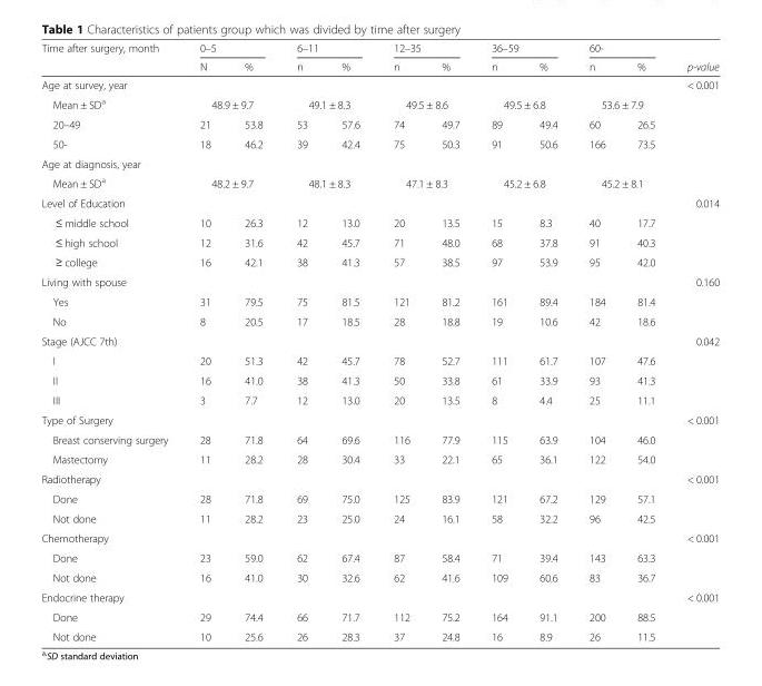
<table><thead><tr><td rowspan="2">Time after surgery, month</td><td colspan="2">0–5</td><td colspan="2">6–11</td><td colspan="2">12–35</td><td colspan="2">36–59</td><td colspan="2">60-</td><td rowspan="2">p-value</td></tr><tr><td>N</td><td>%</td><td>n</td><td>%</td><td>n</td><td>%</td><td>n</td><td>%</td><td>n</td><td>%</td></tr></thead><tbody><tr><td>Age at survey, year</td><td></td><td></td><td></td><td></td><td></td><td></td><td></td><td></td><td></td><td></td><td>&lt; 0.001</td></tr><tr><td>Mean ± SD<sup>a</sup></td><td colspan="2">48.9 ± 9.7</td><td colspan="2">49.1 ± 8.3</td><td colspan="2">49.5 ± 8.6</td><td colspan="2">49.5 ± 6.8</td><td colspan="2">53.6 ± 7.9</td><td></td></tr><tr><td>20–49</td><td>21</td><td>53.8</td><td>53</td><td>57.6</td><td>74</td><td>49.7</td><td>89</td><td>49.4</td><td>60</td><td>26.5</td><td></td></tr><tr><td>50-</td><td>18</td><td>46.2</td><td>39</td><td>42.4</td><td>75</td><td>50.3</td><td>91</td><td>50.6</td><td>166</td><td>73.5</td><td></td></tr><tr><td colspan="12">Age at diagnosis, year</td></tr><tr><td>Mean ± SD<sup>a</sup></td><td colspan="2">48.2 ± 9.7</td><td colspan="2">48.1 ± 8.3</td><td colspan="2">47.1 ± 8.3</td><td colspan="2">45.2 ± 6.8</td><td colspan="2">45.2 ± 8.1</td><td></td></tr><tr><td>Level of Education</td><td></td><td></td><td></td><td></td><td></td><td></td><td></td><td></td><td></td><td></td><td>0.014</td></tr><tr><td>≤ middle school</td><td>10</td><td>26.3</td><td>12</td><td>13.0</td><td>20</td><td>13.5</td><td>15</td><td>8.3</td><td>40</td><td>17.7</td><td></td></tr><tr><td>≤ high school</td><td>12</td><td>31.6</td><td>42</td><td>45.7</td><td>71</td><td>48.0</td><td>68</td><td>37.8</td><td>91</td><td>40.3</td><td></td></tr><tr><td>≥ college</td><td>16</td><td>42.1</td><td>38</td><td>41.3</td><td>57</td><td>38.5</td><td>97</td><td>53.9</td><td>95</td><td>42.0</td><td></td></tr><tr><td>Living with spouse</td><td></td><td></td><td></td><td></td><td></td><td></td><td></td><td></td><td></td><td></td><td>0.160</td></tr><tr><td>Yes</td><td>31</td><td>79.5</td><td>75</td><td>81.5</td><td>121</td><td>81.2</td><td>161</td><td>89.4</td><td>184</td><td>81.4</td><td></td></tr><tr><td>No</td><td>8</td><td>20.5</td><td>17</td><td>18.5</td><td>28</td><td>18.8</td><td>19</td><td>10.6</td><td>42</td><td>18.6</td><td></td></tr><tr><td>Stage (AJCC 7th)</td><td></td><td></td><td></td><td></td><td></td><td></td><td></td><td></td><td></td><td></td><td>0.042</td></tr><tr><td>I</td><td>20</td><td>51.3</td><td>42</td><td>45.7</td><td>78</td><td>52.7</td><td>111</td><td>61.7</td><td>107</td><td>47.6</td><td></td></tr><tr><td>II</td><td>16</td><td>41.0</td><td>38</td><td>41.3</td><td>50</td><td>33.8</td><td>61</td><td>33.9</td><td>93</td><td>41.3</td><td></td></tr><tr><td>III</td><td>3</td><td>7.7</td><td>12</td><td>13.0</td><td>20</td><td>13.5</td><td>8</td><td>4.4</td><td>25</td><td>11.1</td><td></td></tr><tr><td>Type of Surgery</td><td></td><td></td><td></td><td></td><td></td><td></td><td></td><td></td><td></td><td></td><td>&lt; 0.001</td></tr><tr><td>Breast conserving surgery</td><td>28</td><td>71.8</td><td>64</td><td>69.6</td><td>116</td><td>77.9</td><td>115</td><td>63.9</td><td>104</td><td>46.0</td><td></td></tr><tr><td>Mastectomy</td><td>11</td><td>28.2</td><td>28</td><td>30.4</td><td>33</td><td>22.1</td><td>65</td><td>36.1</td><td>122</td><td>54.0</td><td></td></tr><tr><td>Radiotherapy</td><td></td><td></td><td></td><td></td><td></td><td></td><td></td><td></td><td></td><td></td><td>&lt; 0.001</td></tr><tr><td>Done</td><td>28</td><td>71.8</td><td>69</td><td>75.0</td><td>125</td><td>83.9</td><td>121</td><td>67.2</td><td>129</td><td>57.1</td><td></td></tr><tr><td>Not done</td><td>11</td><td>28.2</td><td>23</td><td>25.0</td><td>24</td><td>16.1</td><td>58</td><td>32.2</td><td>96</td><td>42.5</td><td></td></tr><tr><td>Chemotherapy</td><td></td><td></td><td></td><td></td><td></td><td></td><td></td><td></td><td></td><td></td><td>&lt; 0.001</td></tr><tr><td>Done</td><td>23</td><td>59.0</td><td>62</td><td>67.4</td><td>87</td><td>58.4</td><td>71</td><td>39.4</td><td>143</td><td>63.3</td><td></td></tr><tr><td>Not done</td><td>16</td><td>41.0</td><td>30</td><td>32.6</td><td>62</td><td>41.6</td><td>109</td><td>60.6</td><td>83</td><td>36.7</td><td></td></tr><tr><td>Endocrine therapy</td><td></td><td></td><td></td><td></td><td></td><td></td><td></td><td></td><td></td><td></td><td>&lt; 0.001</td></tr><tr><td>Done</td><td>29</td><td>74.4</td><td>66</td><td>71.7</td><td>112</td><td>75.2</td><td>164</td><td>91.1</td><td>200</td><td>88.5</td><td></td></tr><tr><td>Not done</td><td>10</td><td>25.6</td><td>26</td><td>28.3</td><td>37</td><td>24.8</td><td>16</td><td>8.9</td><td>26</td><td>11.5</td><td></td></tr></tbody></table>